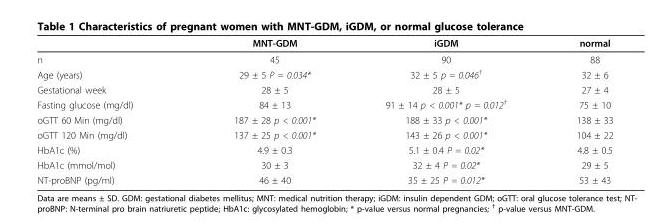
<table><thead><tr><td></td><td>MNT-GDM</td><td>iGDM</td><td>normal</td></tr></thead><tbody><tr><td>n</td><td>45</td><td>90</td><td>88</td></tr><tr><td>Age (years)</td><td>29 ± 5 P = 0.034*</td><td>32 ± 5 p = 0.046<sup>†</sup></td><td>32 ± 6</td></tr><tr><td>Gestational week</td><td>28 ± 5</td><td>28 ± 5</td><td>27 ± 4</td></tr><tr><td>Fasting glucose (mg/dl)</td><td>84 ± 13</td><td>91 ± 14 p &lt; 0.001* p = 0.012<sup>†</sup></td><td>75 ± 10</td></tr><tr><td>oGTT 60 Min (mg/dl)</td><td>187 ± 28 p &lt; 0.001*</td><td>188 ± 33 p &lt; 0.001*</td><td>138 ± 33</td></tr><tr><td>oGTT 120 Min (mg/dl)</td><td>137 ± 25 p &lt; 0.001*</td><td>143 ± 26 p &lt; 0.001*</td><td>104 ± 22</td></tr><tr><td>HbA1c (%)</td><td>4.9 ± 0.3</td><td>5.1 ± 0.4 P = 0.02*</td><td>4.8 ± 0.5</td></tr><tr><td>HbA1c (mmol/mol)</td><td>30 ± 3</td><td>32 ± 4 P = 0.02*</td><td>29 ± 5</td></tr><tr><td>NT-proBNP (pg/ml)</td><td>46 ± 40</td><td>35 ± 25 P = 0.012*</td><td>53 ± 43</td></tr></tbody></table>